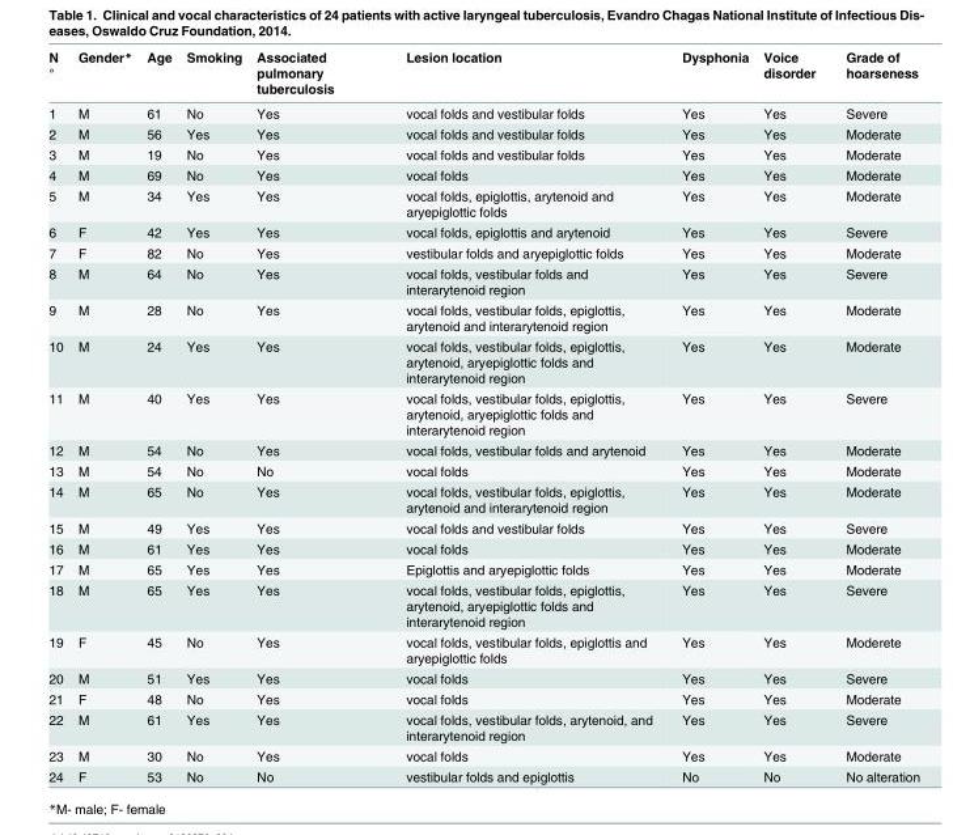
<table><thead><tr><td>N °</td><td>Gender*</td><td>Age</td><td>Smoking</td><td>Associated pulmonary tuberculosis</td><td>Lesion location</td><td>Dysphonia</td><td>Voice disorder</td><td>Grade of hoarseness</td></tr></thead><tbody><tr><td>1</td><td>M</td><td>61</td><td>No</td><td>Yes</td><td>vocal folds and vestibular folds</td><td>Yes</td><td>Yes</td><td>Severe</td></tr><tr><td>2</td><td>M</td><td>56</td><td>Yes</td><td>Yes</td><td>vocal folds and vestibular folds</td><td>Yes</td><td>Yes</td><td>Moderate</td></tr><tr><td>3</td><td>M</td><td>19</td><td>No</td><td>Yes</td><td>vocal folds and vestibular folds</td><td>Yes</td><td>Yes</td><td>Moderate</td></tr><tr><td>4</td><td>M</td><td>69</td><td>No</td><td>Yes</td><td>vocal folds</td><td>Yes</td><td>Yes</td><td>Moderate</td></tr><tr><td>5</td><td>M</td><td>34</td><td>Yes</td><td>Yes</td><td>vocal folds, epiglottis, arytenoid and aryepiglottic folds</td><td>Yes</td><td>Yes</td><td>Moderate</td></tr><tr><td>6</td><td>F</td><td>42</td><td>Yes</td><td>Yes</td><td>vocal folds, epiglottis and arytenoid</td><td>Yes</td><td>Yes</td><td>Severe</td></tr><tr><td>7</td><td>F</td><td>82</td><td>No</td><td>Yes</td><td>vestibular folds and aryepiglottic folds</td><td>Yes</td><td>Yes</td><td>Moderate</td></tr><tr><td>8</td><td>M</td><td>64</td><td>No</td><td>Yes</td><td>vocal folds, vestibular folds and interarytenoid region</td><td>Yes</td><td>Yes</td><td>Severe</td></tr><tr><td>9</td><td>M</td><td>28</td><td>No</td><td>Yes</td><td>vocal folds, vestibular folds, epiglottis, arytenoid and interarytenoid region</td><td>Yes</td><td>Yes</td><td>Moderate</td></tr><tr><td>10</td><td>M</td><td>24</td><td>Yes</td><td>Yes</td><td>vocal folds, vestibular folds, epiglottis, arytenoid, aryepiglottic folds and interarytenoid region</td><td>Yes</td><td>Yes</td><td>Moderate</td></tr><tr><td>11</td><td>M</td><td>40</td><td>Yes</td><td>Yes</td><td>vocal folds, vestibular folds, epiglottis, arytenoid, aryepiglottic folds and interarytenoid region</td><td>Yes</td><td>Yes</td><td>Severe</td></tr><tr><td>12</td><td>M</td><td>54</td><td>No</td><td>Yes</td><td>vocal folds, vestibular folds and arytenoid</td><td>Yes</td><td>Yes</td><td>Moderate</td></tr><tr><td>13</td><td>M</td><td>54</td><td>No</td><td>No</td><td>vocal folds</td><td>Yes</td><td>Yes</td><td>Moderate</td></tr><tr><td>14</td><td>M</td><td>65</td><td>No</td><td>Yes</td><td>vocal folds, vestibular folds, epiglottis, arytenoid and interarytenoid region</td><td>Yes</td><td>Yes</td><td>Moderate</td></tr><tr><td>15</td><td>M</td><td>49</td><td>Yes</td><td>Yes</td><td>vocal folds and vestibular folds</td><td>Yes</td><td>Yes</td><td>Severe</td></tr><tr><td>16</td><td>M</td><td>61</td><td>Yes</td><td>Yes</td><td>vocal folds</td><td>Yes</td><td>Yes</td><td>Moderate</td></tr><tr><td>17</td><td>M</td><td>65</td><td>Yes</td><td>Yes</td><td>Epiglottis and aryepiglottic folds</td><td>Yes</td><td>Yes</td><td>Moderate</td></tr><tr><td>18</td><td>M</td><td>65</td><td>Yes</td><td>Yes</td><td>vocal folds, vestibular folds, epiglottis, arytenoid, aryepiglottic folds and interarytenoid region</td><td>Yes</td><td>Yes</td><td>Severe</td></tr><tr><td>19</td><td>F</td><td>45</td><td>No</td><td>Yes</td><td>vocal folds, vestibular folds, epiglottis and aryepiglottic folds</td><td>Yes</td><td>Yes</td><td>Moderete</td></tr><tr><td>20</td><td>M</td><td>51</td><td>Yes</td><td>Yes</td><td>vocal folds</td><td>Yes</td><td>Yes</td><td>Severe</td></tr><tr><td>21</td><td>F</td><td>48</td><td>No</td><td>Yes</td><td>vocal folds</td><td>Yes</td><td>Yes</td><td>Moderate</td></tr><tr><td>22</td><td>M</td><td>61</td><td>Yes</td><td>Yes</td><td>vocal folds, vestibular folds, arytenoid, and interarytenoid region</td><td>Yes</td><td>Yes</td><td>Severe</td></tr><tr><td>23</td><td>M</td><td>30</td><td>No</td><td>Yes</td><td>vocal folds</td><td>Yes</td><td>Yes</td><td>Moderate</td></tr><tr><td>24</td><td>F</td><td>53</td><td>No</td><td>No</td><td>vestibular folds and epiglottis</td><td>No</td><td>No</td><td>No alteration</td></tr></tbody></table>